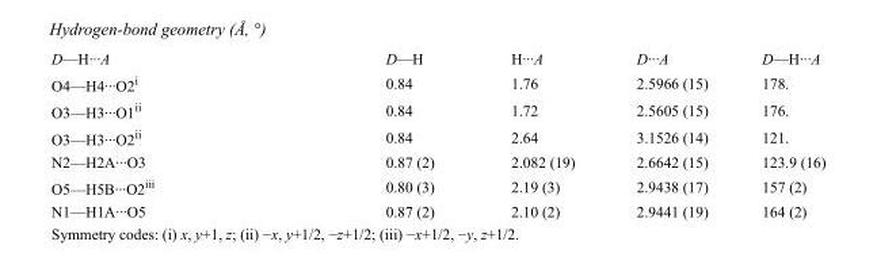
<table><tbody><tr><td>D—H···A</td><td>D—H</td><td>H···A</td><td>D···A</td><td>D—H···A</td></tr><tr><td>O4—H4···O2<sup>i</sup></td><td>0.84</td><td>1.76</td><td>2.5966 (15)</td><td>178.</td></tr><tr><td>O3—H3···O1<sup>ii</sup></td><td>0.84</td><td>1.72</td><td>2.5605 (15)</td><td>176.</td></tr><tr><td>O3—H3···O2<sup>ii</sup></td><td>0.84</td><td>2.64</td><td>3.1526 (14)</td><td>121.</td></tr><tr><td>N2—H2A···O3</td><td>0.87 (2)</td><td>2.082 (19)</td><td>2.6642 (15)</td><td>123.9 (16)</td></tr><tr><td>O5—H5B···O2<sup>iii</sup></td><td>0.80 (3)</td><td>2.19 (3)</td><td>2.9438 (17)</td><td>157 (2)</td></tr><tr><td>N1—H1A···O5</td><td>0.87 (2)</td><td>2.10 (2)</td><td>2.9441 (19)</td><td>164 (2)</td></tr></tbody></table>